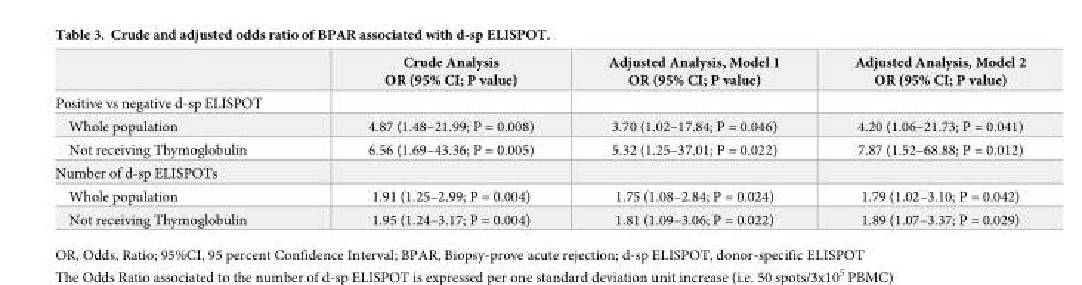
<table><thead><tr><td></td><td>Crude Analysis OR (95% CI; P value)</td><td>Adjusted Analysis, Model 1 OR (95% CI; P value)</td><td>Adjusted Analysis, Model 2 OR (95% CI; P value)</td></tr></thead><tbody><tr><td colspan="4">Positive vs negative d-sp ELISPOT</td></tr><tr><td>Whole population</td><td>4.87 (1.48–21.99; P = 0.008)</td><td>3.70 (1.02–17.84; P = 0.046)</td><td>4.20 (1.06–21.73; P = 0.041)</td></tr><tr><td>Not receiving Thymoglobulin</td><td>6.56 (1.69–43.36; P = 0.005)</td><td>5.32 (1.25–37.01; P = 0.022)</td><td>7.87 (1.52–68.88; P = 0.012)</td></tr><tr><td colspan="4">Number of d-sp ELISPOTs</td></tr><tr><td>Whole population</td><td>1.91 (1.25–2.99; P = 0.004)</td><td>1.75 (1.08–2.84; P = 0.024)</td><td>1.79 (1.02–3.10; P = 0.042)</td></tr><tr><td>Not receiving Thymoglobulin</td><td>1.95 (1.24–3.17; P = 0.004)</td><td>1.81 (1.09–3.06; P = 0.022)</td><td>1.89 (1.07–3.37; P = 0.029)</td></tr></tbody></table>